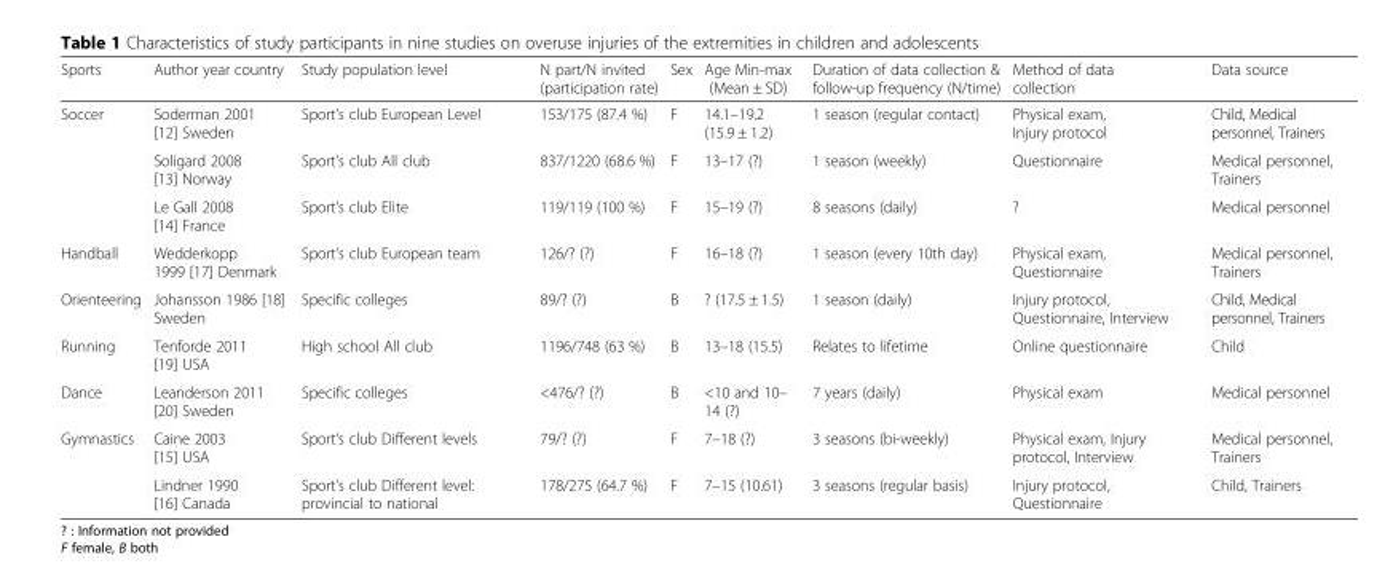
<table><thead><tr><td>Sports</td><td>Author year country</td><td>Study population level</td><td>N part/N invited (participation rate)</td><td>Sex</td><td>Age Min-max (Mean ± SD)</td><td>Duration of data collection &amp; follow-up frequency (N/time)</td><td>Method of data collection</td><td>Data source</td></tr></thead><tbody><tr><td rowspan="3">Soccer</td><td>Soderman 2001 [12] Sweden</td><td>Sport’s club European Level</td><td>153/175 (87.4 %)</td><td>F</td><td>14.1–19.2 (15.9 ± 1.2)</td><td>1 season (regular contact)</td><td>Physical exam, Injury protocol</td><td>Child, Medical personnel, Trainers</td></tr><tr><td>Soligard 2008 [13] Norway</td><td>Sport’s club All club</td><td>837/1220 (68.6 %)</td><td>F</td><td>13–17 (?)</td><td>1 season (weekly)</td><td>Questionnaire</td><td>Medical personnel, Trainers</td></tr><tr><td>Le Gall 2008 [14] France</td><td>Sport’s club Elite</td><td>119/119 (100 %)</td><td>F</td><td>15–19 (?)</td><td>8 seasons (daily)</td><td>?</td><td>Medical personnel</td></tr><tr><td>Handball</td><td>Wedderkopp 1999 [17] Denmark</td><td>Sport’s club European team</td><td>126/? (?)</td><td>F</td><td>16–18 (?)</td><td>1 season (every 10th day)</td><td>Physical exam, Questionnaire</td><td>Medical personnel, Trainers</td></tr><tr><td>Orienteering</td><td>Johansson 1986 [18] Sweden</td><td>Specific colleges</td><td>89/? (?)</td><td>B</td><td>? (17.5 ± 1.5)</td><td>1 season (daily)</td><td>Injury protocol, Questionnaire, Interview</td><td>Child, Medical personnel, Trainers</td></tr><tr><td>Running</td><td>Tenforde 2011 [19] USA</td><td>High school All club</td><td>1196/748 (63 %)</td><td>B</td><td>13–18 (15.5)</td><td>Relates to lifetime</td><td>Online questionnaire</td><td>Child</td></tr><tr><td>Dance</td><td>Leanderson 2011 [20] Sweden</td><td>Specific colleges</td><td>&lt;476/? (?)</td><td>B</td><td>&lt;10 and 10– 14 (?)</td><td>7 years (daily)</td><td>Physical exam</td><td>Medical personnel</td></tr><tr><td rowspan="2">Gymnastics</td><td>Caine 2003 [15] USA</td><td>Sport’s club Different levels</td><td>79/? (?)</td><td>F</td><td>7–18 (?)</td><td>3 seasons (bi-weekly)</td><td>Physical exam, Injury protocol, Interview</td><td>Medical personnel, Trainers</td></tr><tr><td>Lindner 1990 [16] Canada</td><td>Sport’s club Different level: provincial to national</td><td>178/275 (64.7 %)</td><td>F</td><td>7–15 (10.61)</td><td>3 seasons (regular basis)</td><td>Injury protocol, Questionnaire</td><td>Child, Trainers</td></tr></tbody></table>